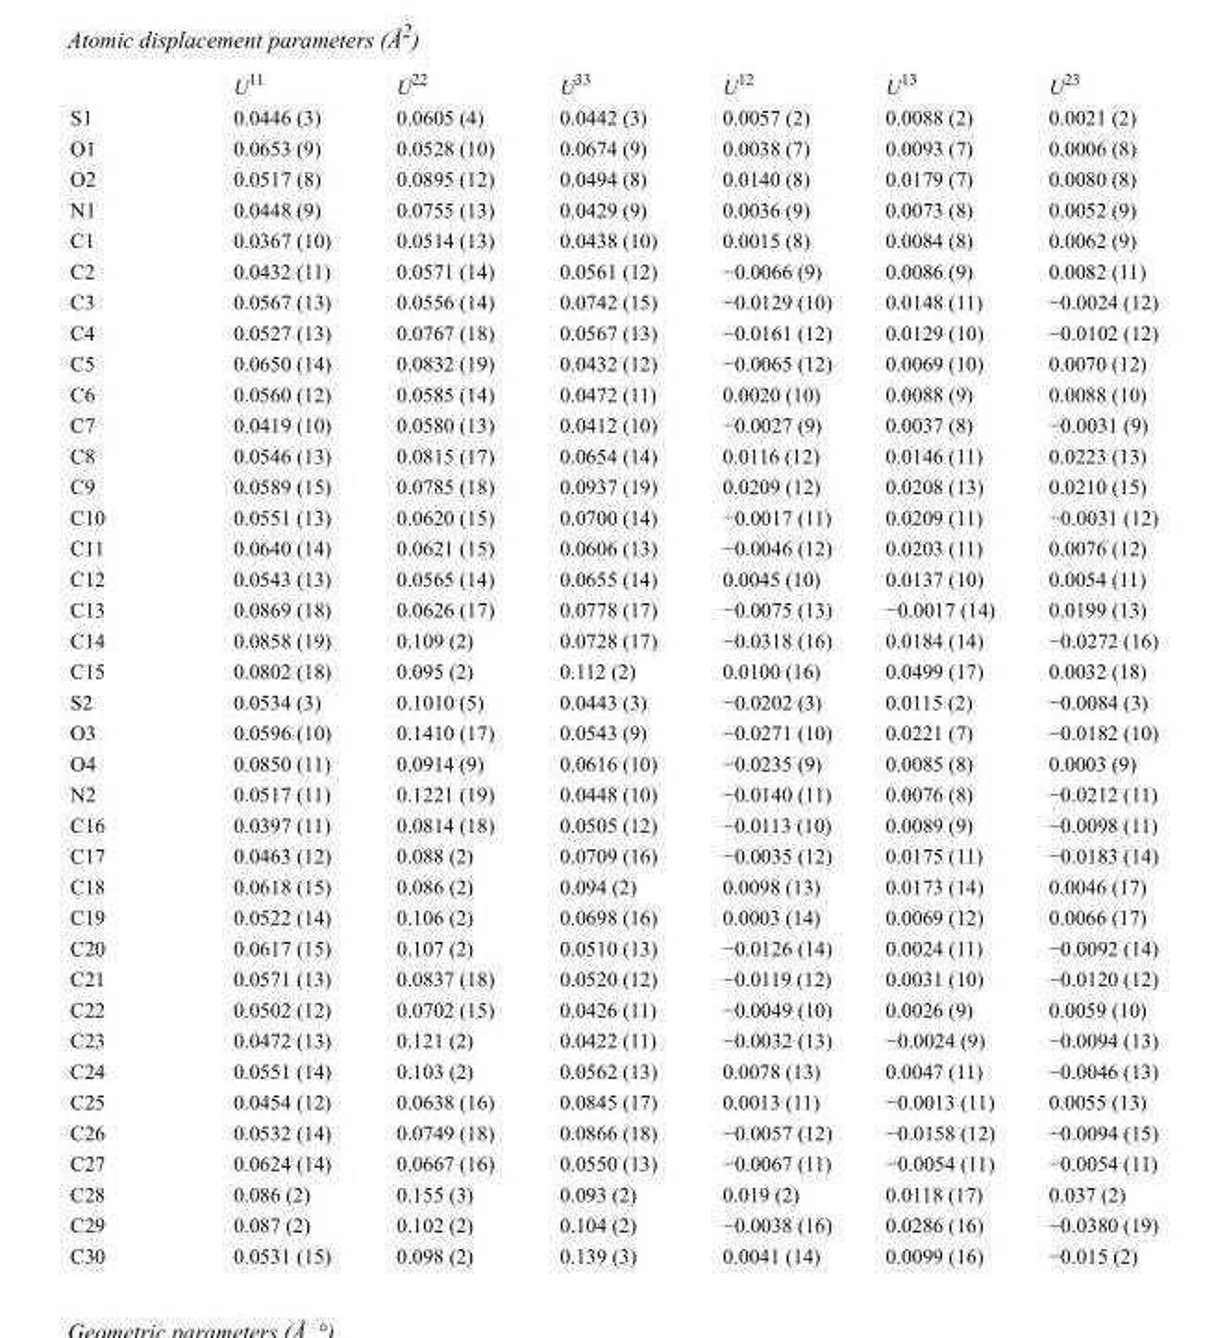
<table><thead><tr><td></td><td>U<sup>11</sup></td><td>U<sup>22</sup></td><td>U<sup>33</sup></td><td>U<sup>12</sup></td><td>U<sup>13</sup></td><td>U<sup>23</sup></td></tr></thead><tbody><tr><td>S1</td><td>0.0446 (3)</td><td>0.0605 (4)</td><td>0.0442 (3)</td><td>0.0057 (2)</td><td>0.0088 (2)</td><td>0.0021 (2)</td></tr><tr><td>O1</td><td>0.0653 (9)</td><td>0.0528 (10)</td><td>0.0674 (9)</td><td>0.0038 (7)</td><td>0.0093 (7)</td><td>0.0006 (8)</td></tr><tr><td>O2</td><td>0.0517 (8)</td><td>0.0895 (12)</td><td>0.0494 (8)</td><td>0.0140 (8)</td><td>0.0179 (7)</td><td>0.0080 (8)</td></tr><tr><td>N1</td><td>0.0448 (9)</td><td>0.0755 (13)</td><td>0.0429 (9)</td><td>0.0036 (9)</td><td>0.0073 (8)</td><td>0.0052 (9)</td></tr><tr><td>C1</td><td>0.0367 (10)</td><td>0.0514 (13)</td><td>0.0438 (10)</td><td>0.0015 (8)</td><td>0.0084 (8)</td><td>0.0062 (9)</td></tr><tr><td>C2</td><td>0.0432 (11)</td><td>0.0571 (14)</td><td>0.0561 (12)</td><td>−0.0066 (9)</td><td>0.0086 (9)</td><td>0.0082 (11)</td></tr><tr><td>C3</td><td>0.0567 (13)</td><td>0.0556 (14)</td><td>0.0742 (15)</td><td>−0.0129 (10)</td><td>0.0148 (11)</td><td>−0.0024 (12)</td></tr><tr><td>C4</td><td>0.0527 (13)</td><td>0.0767 (18)</td><td>0.0567 (13)</td><td>−0.0161 (12)</td><td>0.0129 (10)</td><td>−0.0102 (12)</td></tr><tr><td>C5</td><td>0.0650 (14)</td><td>0.0832 (19)</td><td>0.0432 (12)</td><td>−0.0065 (12)</td><td>0.0069 (10)</td><td>0.0070 (12)</td></tr><tr><td>C6</td><td>0.0560 (12)</td><td>0.0585 (14)</td><td>0.0472 (11)</td><td>0.0020 (10)</td><td>0.0088 (9)</td><td>0.0088 (10)</td></tr><tr><td>C7</td><td>0.0419 (10)</td><td>0.0580 (13)</td><td>0.0412 (10)</td><td>−0.0027 (9)</td><td>0.0037 (8)</td><td>−0.0031 (9)</td></tr><tr><td>C8</td><td>0.0546 (13)</td><td>0.0815 (17)</td><td>0.0654 (14)</td><td>0.0116 (12)</td><td>0.0146 (11)</td><td>0.0223 (13)</td></tr><tr><td>C9</td><td>0.0589 (15)</td><td>0.0785 (18)</td><td>0.0937 (19)</td><td>0.0209 (12)</td><td>0.0208 (13)</td><td>0.0210 (15)</td></tr><tr><td>C10</td><td>0.0551 (13)</td><td>0.0620 (15)</td><td>0.0700 (14)</td><td>−0.0017 (11)</td><td>0.0209 (11)</td><td>−0.0031 (12)</td></tr><tr><td>C11</td><td>0.0640 (14)</td><td>0.0621 (15)</td><td>0.0606 (13)</td><td>−0.0046 (12)</td><td>0.0203 (11)</td><td>0.0076 (12)</td></tr><tr><td>C12</td><td>0.0543 (13)</td><td>0.0565 (14)</td><td>0.0655 (14)</td><td>0.0045 (10)</td><td>0.0137 (10)</td><td>0.0054 (11)</td></tr><tr><td>C13</td><td>0.0869 (18)</td><td>0.0626 (17)</td><td>0.0778 (17)</td><td>−0.0075 (13)</td><td>−0.0017 (14)</td><td>0.0199 (13)</td></tr><tr><td>C14</td><td>0.0858 (19)</td><td>0.109 (2)</td><td>0.0728 (17)</td><td>−0.0318 (16)</td><td>0.0184 (14)</td><td>−0.0272 (16)</td></tr><tr><td>C15</td><td>0.0802 (18)</td><td>0.095 (2)</td><td>0.112 (2)</td><td>0.0100 (16)</td><td>0.0499 (17)</td><td>0.0032 (18)</td></tr><tr><td>S2</td><td>0.0534 (3)</td><td>0.1010 (5)</td><td>0.0443 (3)</td><td>−0.0202 (3)</td><td>0.0115 (2)</td><td>−0.0084 (3)</td></tr><tr><td>O3</td><td>0.0596 (10)</td><td>0.1410 (17)</td><td>0.0543 (9)</td><td>−0.0271 (10)</td><td>0.0221 (7)</td><td>−0.0182 (10)</td></tr><tr><td>O4</td><td>0.0850 (11)</td><td>0.0914 (9)</td><td>0.0616 (10)</td><td>−0.0235 (9)</td><td>0.0085 (8)</td><td>0.0003 (9)</td></tr><tr><td>N2</td><td>0.0517 (11)</td><td>0.1221 (19)</td><td>0.0448 (10)</td><td>−0.0140 (11)</td><td>0.0076 (8)</td><td>−0.0212 (11)</td></tr><tr><td>C16</td><td>0.0397 (11)</td><td>0.0814 (18)</td><td>0.0505 (12)</td><td>−0.0113 (10)</td><td>0.0089 (9)</td><td>−0.0098 (11)</td></tr><tr><td>C17</td><td>0.0463 (12)</td><td>0.088 (2)</td><td>0.0709 (16)</td><td>−0.0035 (12)</td><td>0.0175 (11)</td><td>−0.0183 (14)</td></tr><tr><td>C18</td><td>0.0618 (15)</td><td>0.086 (2)</td><td>0.094 (2)</td><td>0.0098 (13)</td><td>0.0173 (14)</td><td>0.0046 (17)</td></tr><tr><td>C19</td><td>0.0522 (14)</td><td>0.106 (2)</td><td>0.0698 (16)</td><td>0.0003 (14)</td><td>0.0069 (12)</td><td>0.0066 (17)</td></tr><tr><td>C20</td><td>0.0617 (15)</td><td>0.107 (2)</td><td>0.0510 (13)</td><td>−0.0126 (14)</td><td>0.0024 (11)</td><td>−0.0092 (14)</td></tr><tr><td>C21</td><td>0.0571 (13)</td><td>0.0837 (18)</td><td>0.0520 (12)</td><td>−0.0119 (12)</td><td>0.0031 (10)</td><td>−0.0120 (12)</td></tr><tr><td>C22</td><td>0.0502 (12)</td><td>0.0702 (15)</td><td>0.0426 (11)</td><td>−0.0049 (10)</td><td>0.0026 (9)</td><td>0.0059 (10)</td></tr><tr><td>C23</td><td>0.0472 (13)</td><td>0.121 (2)</td><td>0.0422 (11)</td><td>−0.0032 (13)</td><td>−0.0024 (9)</td><td>−0.0094 (13)</td></tr><tr><td>C24</td><td>0.0551 (14)</td><td>0.103 (2)</td><td>0.0562 (13)</td><td>0.0078 (13)</td><td>0.0047 (11)</td><td>−0.0046 (13)</td></tr><tr><td>C25</td><td>0.0454 (12)</td><td>0.0638 (16)</td><td>0.0845 (17)</td><td>0.0013 (11)</td><td>−0.0013 (11)</td><td>0.0055 (13)</td></tr><tr><td>C26</td><td>0.0532 (14)</td><td>0.0749 (18)</td><td>0.0866 (18)</td><td>−0.0057 (12)</td><td>−0.0158 (12)</td><td>−0.0094 (15)</td></tr><tr><td>C27</td><td>0.0624 (14)</td><td>0.0667 (16)</td><td>0.0550 (13)</td><td>−0.0067 (11)</td><td>−0.0054 (11)</td><td>−0.0054 (11)</td></tr><tr><td>C28</td><td>0.086 (2)</td><td>0.155 (3)</td><td>0.093 (2)</td><td>0.019 (2)</td><td>0.0118 (17)</td><td>0.037 (2)</td></tr><tr><td>C29</td><td>0.087 (2)</td><td>0.102 (2)</td><td>0.104 (2)</td><td>−0.0038 (16)</td><td>0.0286 (16)</td><td>−0.0380 (19)</td></tr><tr><td>C30</td><td>0.0531 (15)</td><td>0.098 (2)</td><td>0.139 (3)</td><td>0.0041 (14)</td><td>0.0099 (16)</td><td>−0.015 (2)</td></tr></tbody></table>